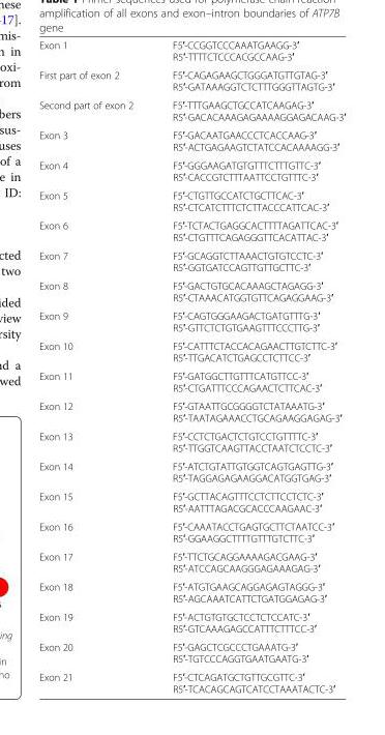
<table><tbody><tr><td>Exon 1</td><td>F5′-CCGGTCCCAAATGAAGG-3′ R5′-TTTTCTCCCACGCCAAG-3′</td></tr><tr><td>First part of exon 2</td><td>F5′-CAGAGAAGCTGGGATGTTGTAG-3′ R5′-GATAAAGGTCTCTTTGGGTTAGTG-3′</td></tr><tr><td>Second part of exon 2</td><td>F5′-TTTGAAGCTGCCATCAAGAG-3′ R5′-GACACAAAGAGAAAAGGAGACAAG-3′</td></tr><tr><td>Exon 3</td><td>F5′-GACAATGAACCCTCACCAAG-3′ R5′-ACTGAGAAGTCTATCCACAAAAGG-3′</td></tr><tr><td>Exon 4</td><td>F5′-GGGAAGATGTGTTTCTTTGTTC-3′ R5′-CACCGTCTTTAATTCCTGTTTC-3′</td></tr><tr><td>Exon 5</td><td>F5′-CTGTTGCCATCTGCTTCAC-3′ R5′-CTCATCTTTCTCTTACCCATTCAC-3′</td></tr><tr><td>Exon 6</td><td>F5′-TCTACTGAGGCACTTTTAGATTCAC-3′ R5′-CTGTTTCAGAGGGTTCACATTAC-3′</td></tr><tr><td>Exon 7</td><td>F5′-GCAGGTCTTAAACTGTGTCCTC-3′ R5′-GGTGATCCAGTTGTTGCTTC-3′</td></tr><tr><td>Exon 8</td><td>F5′-GACTGTGCACAAAGCTAGAGG-3′ R5′-CTAAACATGGTGTTCAGAGGAAG-3′</td></tr><tr><td>Exon 9</td><td>F5′-CAGTGGGAAGACTGATGTTTG-3′ R5′-GTTCTCTGTGAAGTTTCCCTTG-3′</td></tr><tr><td>Exon 10</td><td>F5′-CATTTCTACCACAGAACTTGTCTTC-3′ R5′-TTGACATCTGAGCCTCTTCC-3′</td></tr><tr><td>Exon 11</td><td>F5′-GATGGCTTGTTTCATGTTCC-3′ R5′-CTGATTTCCCAGAACTCTTCAC-3′</td></tr><tr><td>Exon 12</td><td>F5′-GTAATTGCGGGGTCTATAAATG-3′ R5′-TAATAGAAACCTGCAGAAGGAGAG-3′</td></tr><tr><td>Exon 13</td><td>F5′-CCTCTGACTCTGTCCTGTTTTC-3′ R5′-TTGGTCAAGTTACCTAATCTCCTC-3′</td></tr><tr><td>Exon 14</td><td>F5′-ATCTGTATTGTGGTCAGTGAGTTG-3′ R5′-TAGGAGAGAAGGACATGGTGAG-3′</td></tr><tr><td>Exon 15</td><td>F5′-GCTTACAGTTTCCTCTTCCTCTC-3′ R5′-AATTTAGACGCACCCAAGAAC-3′</td></tr><tr><td>Exon 16</td><td>F5′-CAAATACCTGAGTGCTTCTAATCC-3′ R5′-GGAAGGCTTTTGTTTGTCTTC-3′</td></tr><tr><td>Exon 17</td><td>F5′-TTCTGCAGGAAAAGACGAAG-3′ R5′-ATCCAGCAAGGGAGAAAGAG-3′</td></tr><tr><td>Exon 18</td><td>F5′-ATGTGAAGCAGGAGAGTAGGG-3′ R5′-AGCAAATCATTCTGATGGAGAG-3′</td></tr><tr><td>Exon 19</td><td>F5′-ACTGTGTGCTCCTCTCCATC-3′ R5′-GTCAAAGAGCCATTTCTTTCC-3′</td></tr><tr><td>Exon 20</td><td>F5′-GAGCTCGCCCTGAAATG-3′ R5′-TGTCCCAGGTGAATGAATG-3′</td></tr><tr><td>Exon 21</td><td>F5′-CTCAGATGCTGTTGCGTTC-3′ R5′-TCACAGCAGTCATCCTAAATACTC-3′</td></tr></tbody></table>